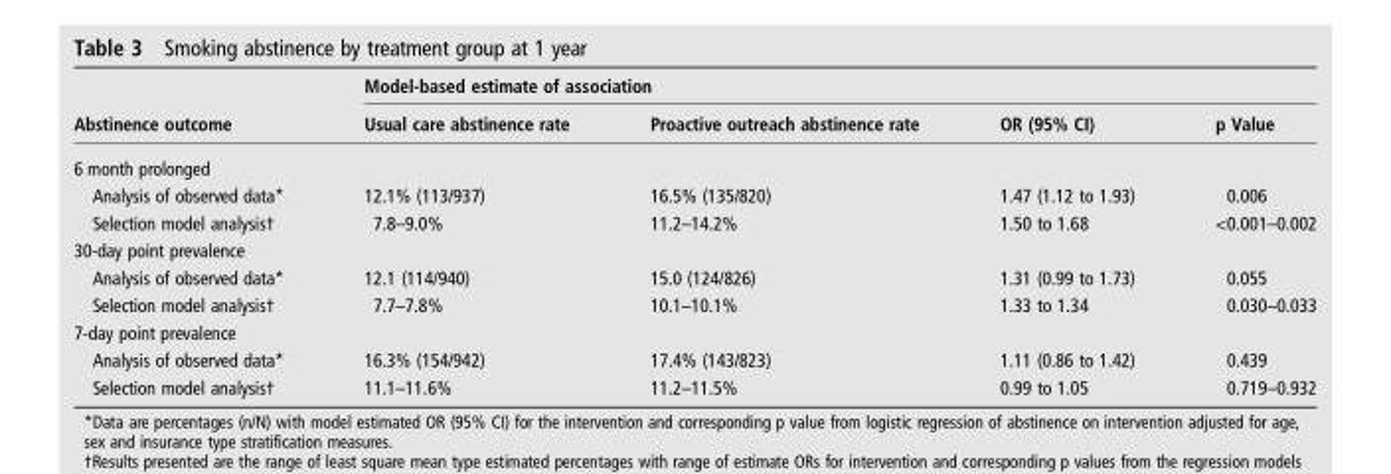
<table><thead><tr><td rowspan="2">Abstinence outcome</td><td colspan="4">Model-based estimate of association</td></tr><tr><td>Usual care abstinence rate</td><td>Proactive outreach abstinence rate</td><td>OR (95% CI)</td><td>p Value</td></tr></thead><tbody><tr><td colspan="5">6 month prolonged</td></tr><tr><td>Analysis of observed data*</td><td>12.1% (113/937)</td><td>16.5% (135/820)</td><td>1.47 (1.12 to 1.93)</td><td>0.006</td></tr><tr><td>Selection model analysis†</td><td>7.8–9.0%</td><td>11.2–14.2%</td><td>1.50 to 1.68</td><td>&lt;0.001–0.002</td></tr><tr><td colspan="5">30-day point prevalence</td></tr><tr><td>Analysis of observed data*</td><td>12.1 (114/940)</td><td>15.0 (124/826)</td><td>1.31 (0.99 to 1.73)</td><td>0.055</td></tr><tr><td>Selection model analysis†</td><td>7.7–7.8%</td><td>10.1–10.1%</td><td>1.33 to 1.34</td><td>0.030–0.033</td></tr><tr><td colspan="5">7-day point prevalence</td></tr><tr><td>Analysis of observed data*</td><td>16.3% (154/942)</td><td>17.4% (143/823)</td><td>1.11 (0.86 to 1.42)</td><td>0.439</td></tr><tr><td>Selection model analysis†</td><td>11.1–11.6%</td><td>11.2–11.5%</td><td>0.99 to 1.05</td><td>0.719–0.932</td></tr></tbody></table>